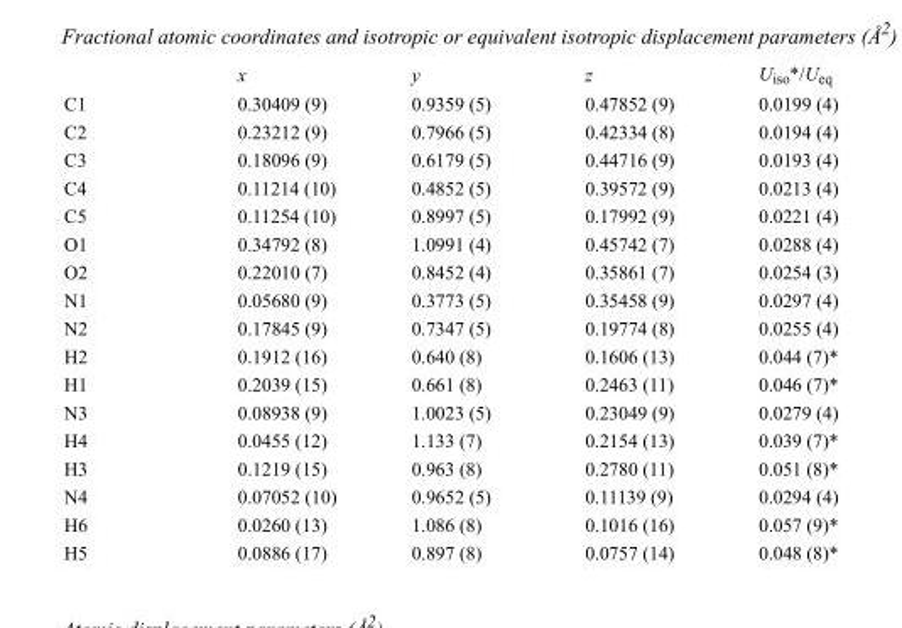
<table><thead><tr><td></td><td>x</td><td>y</td><td>z</td><td>U<sub>iso</sub>*/U<sub>eq</sub></td></tr></thead><tbody><tr><td>C1</td><td>0.30409 (9)</td><td>0.9359 (5)</td><td>0.47852 (9)</td><td>0.0199 (4)</td></tr><tr><td>C2</td><td>0.23212 (9)</td><td>0.7966 (5)</td><td>0.42334 (8)</td><td>0.0194 (4)</td></tr><tr><td>C3</td><td>0.18096 (9)</td><td>0.6179 (5)</td><td>0.44716 (9)</td><td>0.0193 (4)</td></tr><tr><td>C4</td><td>0.11214 (10)</td><td>0.4852 (5)</td><td>0.39572 (9)</td><td>0.0213 (4)</td></tr><tr><td>C5</td><td>0.11254 (10)</td><td>0.8997 (5)</td><td>0.17992 (9)</td><td>0.0221 (4)</td></tr><tr><td>O1</td><td>0.34792 (8)</td><td>1.0991 (4)</td><td>0.45742 (7)</td><td>0.0288 (4)</td></tr><tr><td>O2</td><td>0.22010 (7)</td><td>0.8452 (4)</td><td>0.35861 (7)</td><td>0.0254 (3)</td></tr><tr><td>N1</td><td>0.05680 (9)</td><td>0.3773 (5)</td><td>0.35458 (9)</td><td>0.0297 (4)</td></tr><tr><td>N2</td><td>0.17845 (9)</td><td>0.7347 (5)</td><td>0.19774 (8)</td><td>0.0255 (4)</td></tr><tr><td>H2</td><td>0.1912 (16)</td><td>0.640 (8)</td><td>0.1606 (13)</td><td>0.044 (7)*</td></tr><tr><td>H1</td><td>0.2039 (15)</td><td>0.661 (8)</td><td>0.2463 (11)</td><td>0.046 (7)*</td></tr><tr><td>N3</td><td>0.08938 (9)</td><td>1.0023 (5)</td><td>0.23049 (9)</td><td>0.0279 (4)</td></tr><tr><td>H4</td><td>0.0455 (12)</td><td>1.133 (7)</td><td>0.2154 (13)</td><td>0.039 (7)*</td></tr><tr><td>H3</td><td>0.1219 (15)</td><td>0.963 (8)</td><td>0.2780 (11)</td><td>0.051 (8)*</td></tr><tr><td>N4</td><td>0.07052 (10)</td><td>0.9652 (5)</td><td>0.11139 (9)</td><td>0.0294 (4)</td></tr><tr><td>H6</td><td>0.0260 (13)</td><td>1.086 (8)</td><td>0.1016 (16)</td><td>0.057 (9)*</td></tr><tr><td>H5</td><td>0.0886 (17)</td><td>0.897 (8)</td><td>0.0757 (14)</td><td>0.048 (8)*</td></tr></tbody></table>